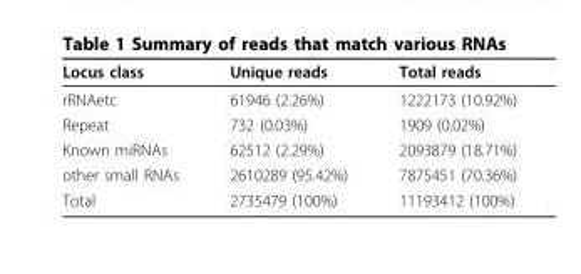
<table><thead><tr><td>Locus class</td><td>Unique reads</td><td>Total reads</td></tr></thead><tbody><tr><td>rRNAetc</td><td>61946 (2.26%)</td><td>1222173 (10.92%)</td></tr><tr><td>Repeat</td><td>732 (0.03%)</td><td>1909 (0.02%)</td></tr><tr><td>Known miRNAs</td><td>62512 (2.29%)</td><td>2093879 (18.71%)</td></tr><tr><td>other small RNAs</td><td>2610289 (95.42%)</td><td>7875451 (70.36%)</td></tr><tr><td>Total</td><td>2735479 (100%)</td><td>11193412 (100%)</td></tr></tbody></table>